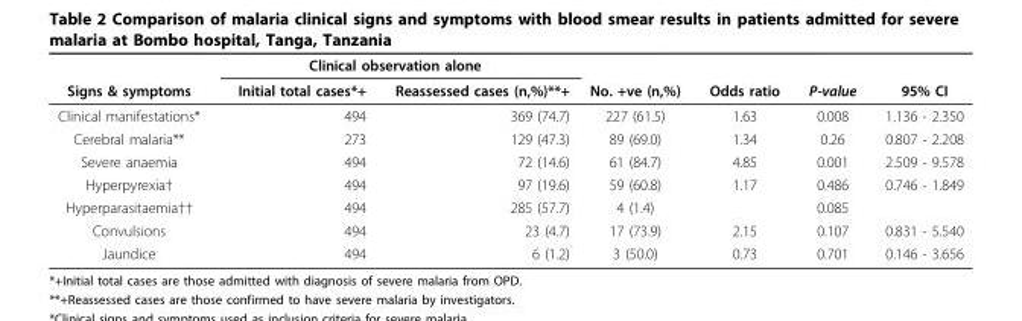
<table><thead><tr><td rowspan="2">Signs &amp; symptoms</td><td colspan="2">Clinical observation alone</td><td rowspan="2">No. +ve (n,%)</td><td rowspan="2">Odds ratio</td><td rowspan="2">P-value</td><td rowspan="2">95% CI</td></tr><tr><td>Initial total cases*+</td><td>Reassessed cases (n,%)**+</td></tr></thead><tbody><tr><td>Clinical manifestations*</td><td>494</td><td>369 (74.7)</td><td>227 (61.5)</td><td>1.63</td><td>0.008</td><td>1.136 - 2.350</td></tr><tr><td>Cerebral malaria**</td><td>273</td><td>129 (47.3)</td><td>89 (69.0)</td><td>1.34</td><td>0.26</td><td>0.807 - 2.208</td></tr><tr><td>Severe anaemia</td><td>494</td><td>72 (14.6)</td><td>61 (84.7)</td><td>4.85</td><td>0.001</td><td>2.509 - 9.578</td></tr><tr><td>Hyperpyrexia†</td><td>494</td><td>97 (19.6)</td><td>59 (60.8)</td><td>1.17</td><td>0.486</td><td>0.746 - 1.849</td></tr><tr><td>Hyperparasitaemia††</td><td>494</td><td>285 (57.7)</td><td>4 (1.4)</td><td></td><td>0.085</td><td></td></tr><tr><td>Convulsions</td><td>494</td><td>23 (4.7)</td><td>17 (73.9)</td><td>2.15</td><td>0.107</td><td>0.831 - 5.540</td></tr><tr><td>Jaundice</td><td>494</td><td>6 (1.2)</td><td>3 (50.0)</td><td>0.73</td><td>0.701</td><td>0.146 - 3.656</td></tr></tbody></table>